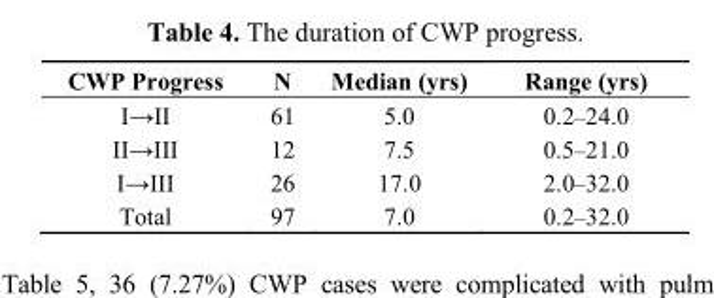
<table><thead><tr><td>CWP Progress</td><td>N</td><td>Median (yrs)</td><td>Range (yrs)</td></tr></thead><tbody><tr><td>I→II</td><td>61</td><td>5.0</td><td>0.2–24.0</td></tr><tr><td>II→III</td><td>12</td><td>7.5</td><td>0.5–21.0</td></tr><tr><td>I→III</td><td>26</td><td>17.0</td><td>2.0–32.0</td></tr><tr><td>Total</td><td>97</td><td>7.0</td><td>0.2–32.0</td></tr></tbody></table>